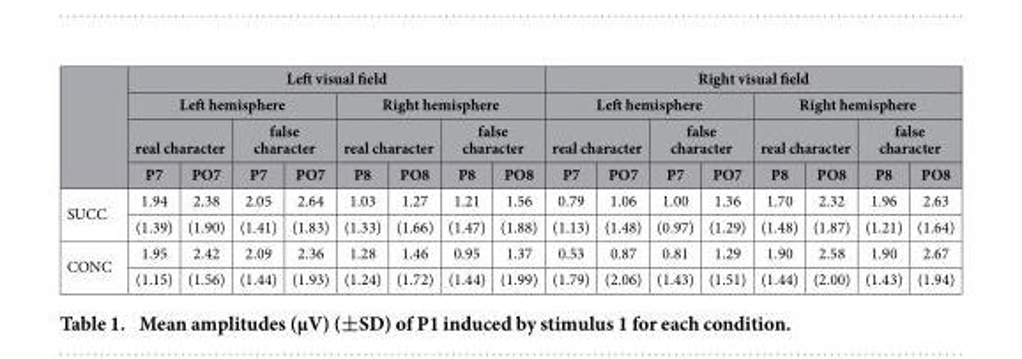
<table><thead><tr><td rowspan="4"></td><td colspan="8">Left visual field</td><td colspan="8">Right visual field</td></tr><tr><td colspan="4">Left hemisphere</td><td colspan="4">Right hemisphere</td><td colspan="4">Left hemisphere</td><td colspan="4">Right hemisphere</td></tr><tr><td colspan="2">real character</td><td colspan="2">false character</td><td colspan="2">real character</td><td colspan="2">false character</td><td colspan="2">real character</td><td colspan="2">false character</td><td colspan="2">real character</td><td colspan="2">false character</td></tr><tr><td>P7</td><td>PO7</td><td>P7</td><td>PO7</td><td>P8</td><td>PO8</td><td>P8</td><td>PO8</td><td>P7</td><td>PO7</td><td>P7</td><td>PO7</td><td>P8</td><td>PO8</td><td>P8</td><td>PO8</td></tr></thead><tbody><tr><td rowspan="2">SUCC</td><td>1.94</td><td>2.38</td><td>2.05</td><td>2.64</td><td>1.03</td><td>1.27</td><td>1.21</td><td>1.56</td><td>0.79</td><td>1.06</td><td>1.00</td><td>1.36</td><td>1.70</td><td>2.32</td><td>1.96</td><td>2.63</td></tr><tr><td>(1.39)</td><td>(1.90)</td><td>(1.41)</td><td>(1.83)</td><td>(1.33)</td><td>(1.66)</td><td>(1.47)</td><td>(1.88)</td><td>(1.13)</td><td>(1.48)</td><td>(0.97)</td><td>(1.29)</td><td>(1.48)</td><td>(1.87)</td><td>(1.21)</td><td>(1.64)</td></tr><tr><td rowspan="2">CONC</td><td>1.95</td><td>2.42</td><td>2.09</td><td>2.36</td><td>1.28</td><td>1.46</td><td>0.95</td><td>1.37</td><td>0.53</td><td>0.87</td><td>0.81</td><td>1.29</td><td>1.90</td><td>2.58</td><td>1.90</td><td>2.67</td></tr><tr><td>(1.15)</td><td>(1.56)</td><td>(1.44)</td><td>(1.93)</td><td>(1.24)</td><td>(1.72)</td><td>(1.44)</td><td>(1.99)</td><td>(1.79)</td><td>(2.06)</td><td>(1.43)</td><td>(1.51)</td><td>(1.44)</td><td>(2.00)</td><td>(1.43)</td><td>(1.94)</td></tr></tbody></table>